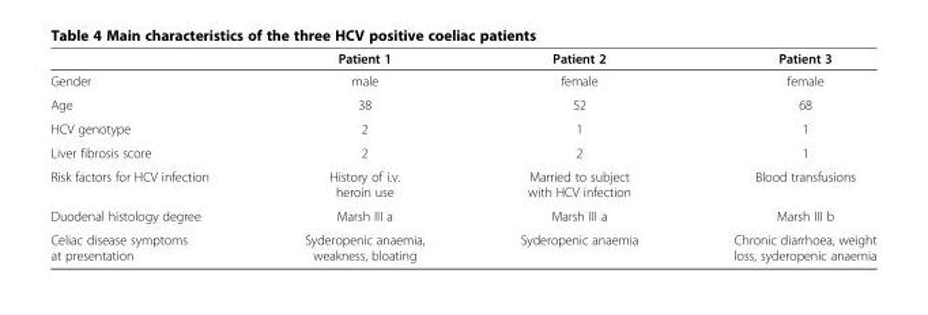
<table><thead><tr><td></td><td>Patient 1</td><td>Patient 2</td><td>Patient 3</td></tr></thead><tbody><tr><td>Gender</td><td>male</td><td>female</td><td>female</td></tr><tr><td>Age</td><td>38</td><td>52</td><td>68</td></tr><tr><td>HCV genotype</td><td>2</td><td>1</td><td>1</td></tr><tr><td>Liver fibrosis score</td><td>2</td><td>2</td><td>1</td></tr><tr><td>Risk factors for HCV infection</td><td>History of i.v. heroin use</td><td>Married to subject with HCV infection</td><td>Blood transfusions</td></tr><tr><td>Duodenal histology degree</td><td>Marsh III a</td><td>Marsh III a</td><td>Marsh III b</td></tr><tr><td>Celiac disease symptoms at presentation</td><td>Syderopenic anaemia, weakness, bloating</td><td>Syderopenic anaemia</td><td>Chronic diarrhoea, weight loss, syderopenic anaemia</td></tr></tbody></table>